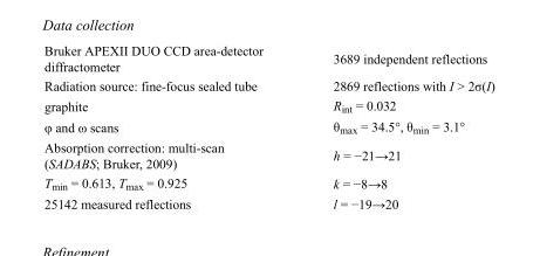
<table><tbody><tr><td>Bruker APEXII DUO CCD area-detector diffractometer</td><td>3689 independent reflections</td></tr><tr><td>Radiation source: fine-focus sealed tube</td><td>2869 reflections with I &gt; 2σ(I)</td></tr><tr><td>graphite</td><td>R<sub>int</sub> = 0.032</td></tr><tr><td>φ and ω scans</td><td>θ<sub>max</sub> = 34.5°, θ<sub>min</sub> = 3.1°</td></tr><tr><td>Absorption correction: multi-scan (SADABS; Bruker, 2009)</td><td>h = −21→21</td></tr><tr><td>T<sub>min</sub> = 0.613, T<sub>max</sub> = 0.925</td><td>k = −8→8</td></tr><tr><td>25142 measured reflections</td><td>l = −19→20</td></tr></tbody></table>